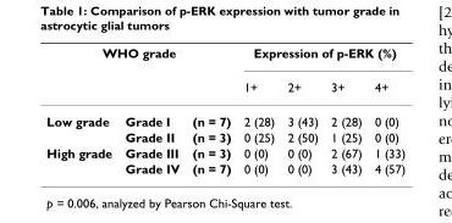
<table><thead><tr><td colspan="3">WHO grade</td><td colspan="4">Expression of p-ERK (%)</td></tr><tr><td></td><td></td><td></td><td>1+</td><td>2+</td><td>3+</td><td>4+</td></tr></thead><tbody><tr><td rowspan="2">Low grade</td><td>Grade I</td><td>(n = 7)</td><td>2 (28)</td><td>3 (43)</td><td>2 (28)</td><td>0 (0)</td></tr><tr><td>Grade II</td><td>(n = 3)</td><td>0 (25)</td><td>2 (50)</td><td>1 (25)</td><td>0 (0)</td></tr><tr><td rowspan="2">High grade</td><td>Grade III</td><td>(n = 3)</td><td>0 (0)</td><td>0 (0)</td><td>2 (67)</td><td>1 (33)</td></tr><tr><td>Grade IV</td><td>(n = 7)</td><td>0 (0)</td><td>0 (0)</td><td>3 (43)</td><td>4 (57)</td></tr></tbody></table>